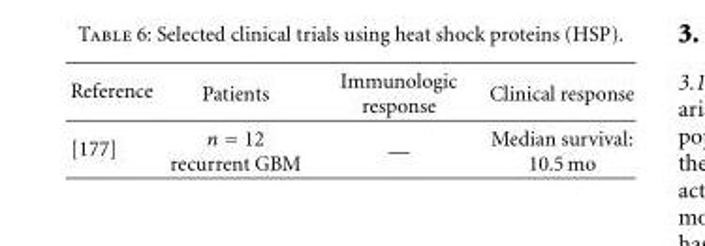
<table><thead><tr><td>Reference</td><td>Patients</td><td>Immunologic response</td><td>Clinical response</td></tr></thead><tbody><tr><td>[177]</td><td>n = 12 recurrent GBM</td><td>—</td><td>Median survival: 10.5 mo</td></tr></tbody></table>